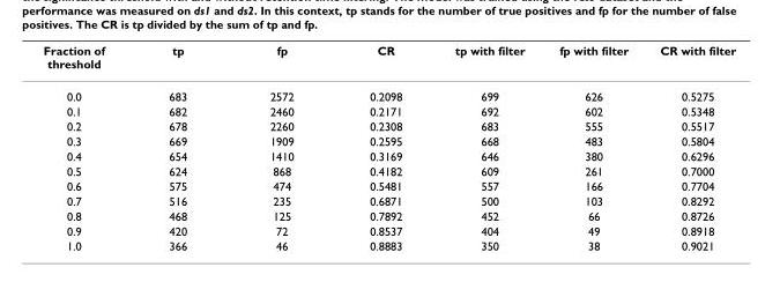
<table><thead><tr><td>Fraction of threshold</td><td>tp</td><td>fp</td><td>CR</td><td>tp with filter</td><td>fp with filter</td><td>CR with filter</td></tr></thead><tbody><tr><td>0.0</td><td>683</td><td>2572</td><td>0.2098</td><td>699</td><td>626</td><td>0.5275</td></tr><tr><td>0.1</td><td>682</td><td>2460</td><td>0.2171</td><td>692</td><td>602</td><td>0.5348</td></tr><tr><td>0.2</td><td>678</td><td>2260</td><td>0.2308</td><td>683</td><td>555</td><td>0.5517</td></tr><tr><td>0.3</td><td>669</td><td>1909</td><td>0.2595</td><td>668</td><td>483</td><td>0.5804</td></tr><tr><td>0.4</td><td>654</td><td>1410</td><td>0.3169</td><td>646</td><td>380</td><td>0.6296</td></tr><tr><td>0.5</td><td>624</td><td>868</td><td>0.4182</td><td>609</td><td>261</td><td>0.7000</td></tr><tr><td>0.6</td><td>575</td><td>474</td><td>0.5481</td><td>557</td><td>166</td><td>0.7704</td></tr><tr><td>0.7</td><td>516</td><td>235</td><td>0.6871</td><td>500</td><td>103</td><td>0.8292</td></tr><tr><td>0.8</td><td>468</td><td>125</td><td>0.7892</td><td>452</td><td>66</td><td>0.8726</td></tr><tr><td>0.9</td><td>420</td><td>72</td><td>0.8537</td><td>404</td><td>49</td><td>0.8918</td></tr><tr><td>1.0</td><td>366</td><td>46</td><td>0.8883</td><td>350</td><td>38</td><td>0.9021</td></tr></tbody></table>